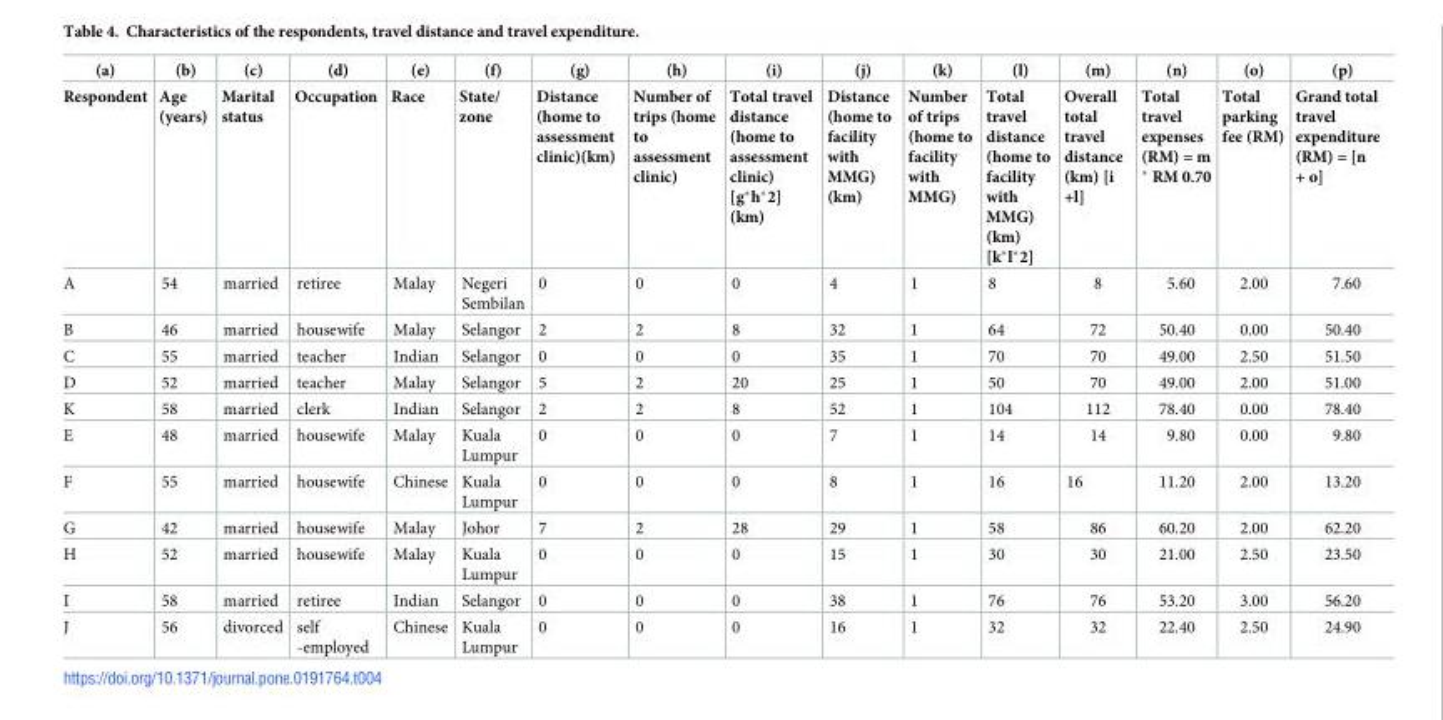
<table><thead><tr><td rowspan="2">(a) Respondent</td><td rowspan="2">(b) Age (years)</td><td rowspan="2">(c) Marital status</td><td rowspan="2">(d) Occupation</td><td rowspan="2">(e) Race</td><td rowspan="2">(f) State/ zone</td><td rowspan="2">(g) Distance (home to assessment clinic)(km)</td><td rowspan="2">(h) Number of trips (home to assessment clinic)</td><td rowspan="2">(i) Total travel distance (home to assessment clinic) [g*h*2] (km)</td><td rowspan="2">(j) Distance (home to facility with MMG) (km)</td><td rowspan="2">(k) Number of trips (home to facility with MMG)</td><td rowspan="2">(l) Total travel distance (home to facility with MMG) (km) [k*l*2]</td><td rowspan="2">(m) Overall total travel distance (km) [i +l]</td><td rowspan="2">(n) Total travel expenses (RM) = m * RM 0.70</td><td rowspan="2">(o) Total parking fee (RM)</td><td rowspan="2">(p) Grand total travel expenditure (RM) = [n + o]</td></tr><tr></tr></thead><tbody><tr><td>A</td><td>54</td><td>married</td><td>retiree</td><td>Malay</td><td>Negeri Sembilan</td><td>0</td><td>0</td><td>0</td><td>4</td><td>1</td><td>8</td><td>8</td><td>5.60</td><td>2.00</td><td>7.60</td></tr><tr><td>B</td><td>46</td><td>married</td><td>housewife</td><td>Malay</td><td>Selangor</td><td>2</td><td>2</td><td>8</td><td>32</td><td>1</td><td>64</td><td>72</td><td>50.40</td><td>0.00</td><td>50.40</td></tr><tr><td>C</td><td>55</td><td>married</td><td>teacher</td><td>Indian</td><td>Selangor</td><td>0</td><td>0</td><td>0</td><td>35</td><td>1</td><td>70</td><td>70</td><td>49.00</td><td>2.50</td><td>51.50</td></tr><tr><td>D</td><td>52</td><td>married</td><td>teacher</td><td>Malay</td><td>Selangor</td><td>5</td><td>2</td><td>20</td><td>25</td><td>1</td><td>50</td><td>70</td><td>49.00</td><td>2.00</td><td>51.00</td></tr><tr><td>K</td><td>58</td><td>married</td><td>clerk</td><td>Indian</td><td>Selangor</td><td>2</td><td>2</td><td>8</td><td>52</td><td>1</td><td>104</td><td>112</td><td>78.40</td><td>0.00</td><td>78.40</td></tr><tr><td>E</td><td>48</td><td>married</td><td>housewife</td><td>Malay</td><td>Kuala Lumpur</td><td>0</td><td>0</td><td>0</td><td>7</td><td>1</td><td>14</td><td>14</td><td>9.80</td><td>0.00</td><td>9.80</td></tr><tr><td>F</td><td>55</td><td>married</td><td>housewife</td><td>Chinese</td><td>Kuala Lumpur</td><td>0</td><td>0</td><td>0</td><td>8</td><td>1</td><td>16</td><td>16</td><td>11.20</td><td>2.00</td><td>13.20</td></tr><tr><td>G</td><td>42</td><td>married</td><td>housewife</td><td>Malay</td><td>Johor</td><td>7</td><td>2</td><td>28</td><td>29</td><td>1</td><td>58</td><td>86</td><td>60.20</td><td>2.00</td><td>62.20</td></tr><tr><td>H</td><td>52</td><td>married</td><td>housewife</td><td>Malay</td><td>Kuala Lumpur</td><td>0</td><td>0</td><td>0</td><td>15</td><td>1</td><td>30</td><td>30</td><td>21.00</td><td>2.50</td><td>23.50</td></tr><tr><td>I</td><td>58</td><td>married</td><td>retiree</td><td>Indian</td><td>Selangor</td><td>0</td><td>0</td><td>0</td><td>38</td><td>1</td><td>76</td><td>76</td><td>53.20</td><td>3.00</td><td>56.20</td></tr><tr><td>J</td><td>56</td><td>divorced</td><td>self -employed</td><td>Chinese</td><td>Kuala Lumpur</td><td>0</td><td>0</td><td>0</td><td>16</td><td>1</td><td>32</td><td>32</td><td>22.40</td><td>2.50</td><td>24.90</td></tr></tbody></table>